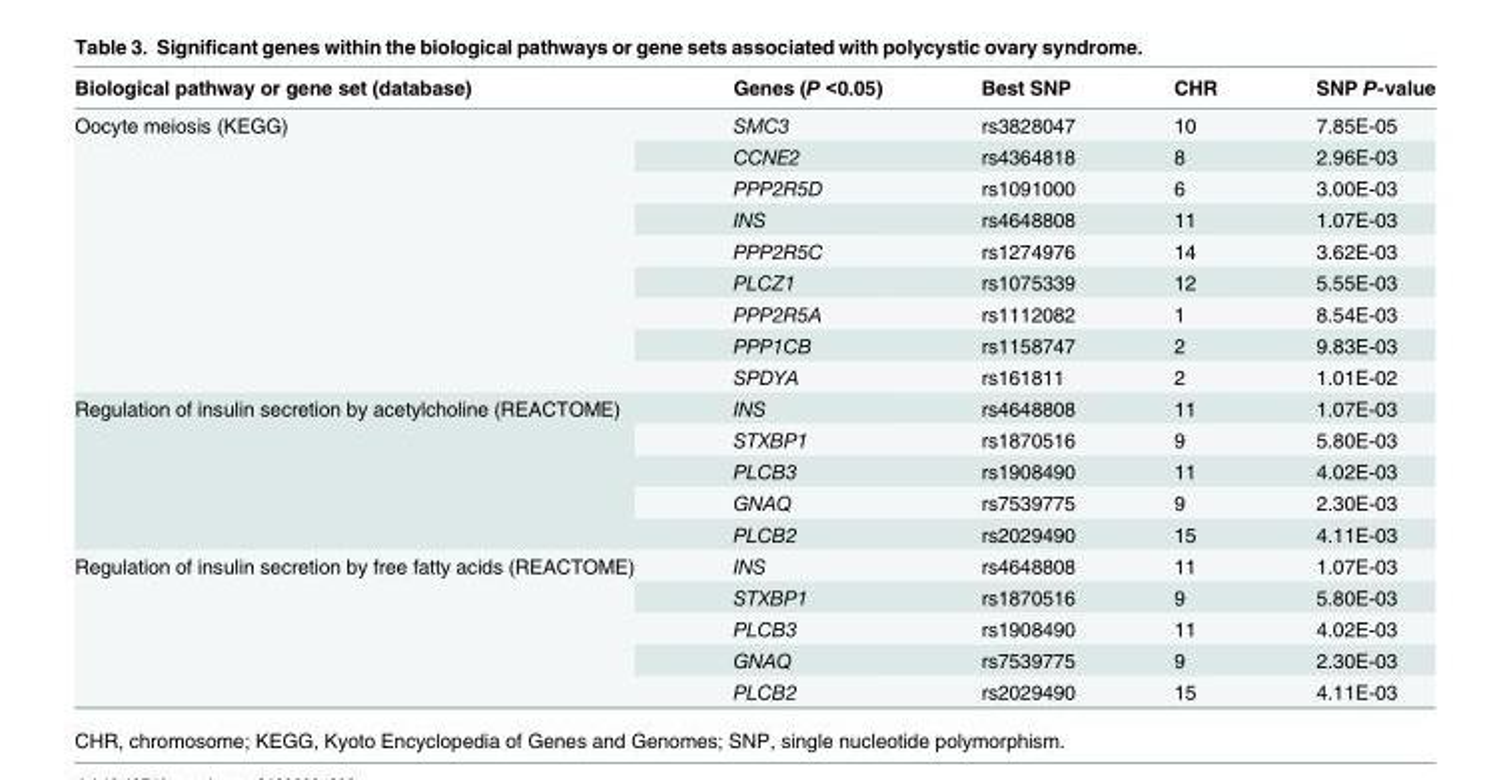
<table><thead><tr><td>Biological pathway or gene set (database)</td><td>Genes (P &lt;0.05)</td><td>Best SNP</td><td>CHR</td><td>SNP P-value</td></tr></thead><tbody><tr><td rowspan="9">Oocyte meiosis (KEGG)</td><td>SMC3</td><td>rs3828047</td><td>10</td><td>7.85E-05</td></tr><tr><td>CCNE2</td><td>rs4364818</td><td>8</td><td>2.96E-03</td></tr><tr><td>PPP2R5D</td><td>rs1091000</td><td>6</td><td>3.00E-03</td></tr><tr><td>INS</td><td>rs4648808</td><td>11</td><td>1.07E-03</td></tr><tr><td>PPP2R5C</td><td>rs1274976</td><td>14</td><td>3.62E-03</td></tr><tr><td>PLCZ1</td><td>rs1075339</td><td>12</td><td>5.55E-03</td></tr><tr><td>PPP2R5A</td><td>rs1112082</td><td>1</td><td>8.54E-03</td></tr><tr><td>PPP1CB</td><td>rs1158747</td><td>2</td><td>9.83E-03</td></tr><tr><td>SPDYA</td><td>rs161811</td><td>2</td><td>1.01E-02</td></tr><tr><td rowspan="5">Regulation of insulin secretion by acetylcholine (REACTOME)</td><td>INS</td><td>rs4648808</td><td>11</td><td>1.07E-03</td></tr><tr><td>STXBP1</td><td>rs1870516</td><td>9</td><td>5.80E-03</td></tr><tr><td>PLCB3</td><td>rs1908490</td><td>11</td><td>4.02E-03</td></tr><tr><td>GNAQ</td><td>rs7539775</td><td>9</td><td>2.30E-03</td></tr><tr><td>PLCB2</td><td>rs2029490</td><td>15</td><td>4.11E-03</td></tr><tr><td rowspan="5">Regulation of insulin secretion by free fatty acids (REACTOME)</td><td>INS</td><td>rs4648808</td><td>11</td><td>1.07E-03</td></tr><tr><td>STXBP1</td><td>rs1870516</td><td>9</td><td>5.80E-03</td></tr><tr><td>PLCB3</td><td>rs1908490</td><td>11</td><td>4.02E-03</td></tr><tr><td>GNAQ</td><td>rs7539775</td><td>9</td><td>2.30E-03</td></tr><tr><td>PLCB2</td><td>rs2029490</td><td>15</td><td>4.11E-03</td></tr></tbody></table>